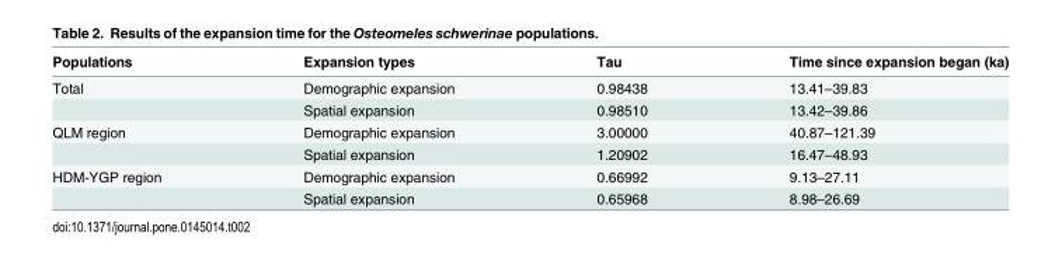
<table><thead><tr><td>Populations</td><td>Expansion types</td><td>Tau</td><td>Time since expansion began (ka)</td></tr></thead><tbody><tr><td rowspan="2">Total</td><td>Demographic expansion</td><td>0.98438</td><td>13.41–39.83</td></tr><tr><td>Spatial expansion</td><td>0.98510</td><td>13.42–39.86</td></tr><tr><td rowspan="2">QLM region</td><td>Demographic expansion</td><td>3.00000</td><td>40.87–121.39</td></tr><tr><td>Spatial expansion</td><td>1.20902</td><td>16.47–48.93</td></tr><tr><td rowspan="2">HDM-YGP region</td><td>Demographic expansion</td><td>0.66992</td><td>9.13–27.11</td></tr><tr><td>Spatial expansion</td><td>0.65968</td><td>8.98–26.69</td></tr></tbody></table>